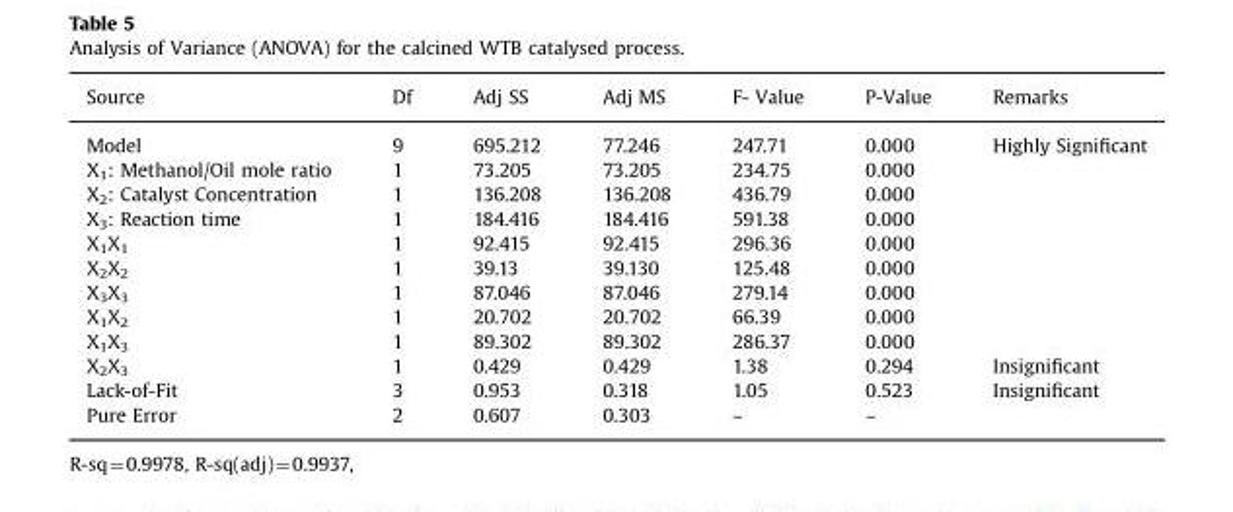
<table><thead><tr><td>Source</td><td>Df</td><td>Adj SS</td><td>Adj MS</td><td>F- Value</td><td>P-Value</td><td>Remarks</td></tr></thead><tbody><tr><td>Model</td><td>9</td><td>695.212</td><td>77.246</td><td>247.71</td><td>0.000</td><td rowspan="9">Highly Significant</td></tr><tr><td>X<sub>1</sub>: Methanol/Oil mole ratio</td><td>1</td><td>73.205</td><td>73.205</td><td>234.75</td><td>0.000</td></tr><tr><td>X<sub>2</sub>: Catalyst Concentration</td><td>1</td><td>136.208</td><td>136.208</td><td>436.79</td><td>0.000</td></tr><tr><td>X<sub>3</sub>: Reaction time</td><td>1</td><td>184.416</td><td>184.416</td><td>591.38</td><td>0.000</td></tr><tr><td>X<sub>1</sub>X<sub>1</sub></td><td>1</td><td>92.415</td><td>92.415</td><td>296.36</td><td>0.000</td></tr><tr><td>X<sub>2</sub>X<sub>2</sub></td><td>1</td><td>39.13</td><td>39.130</td><td>125.48</td><td>0.000</td></tr><tr><td>X<sub>3</sub>X<sub>3</sub></td><td>1</td><td>87.046</td><td>87.046</td><td>279.14</td><td>0.000</td></tr><tr><td>X<sub>1</sub>X<sub>2</sub></td><td>1</td><td>20.702</td><td>20.702</td><td>66.39</td><td>0.000</td></tr><tr><td>X<sub>1</sub>X<sub>3</sub></td><td>1</td><td>89.302</td><td>89.302</td><td>286.37</td><td>0.000</td></tr><tr><td>X<sub>2</sub>X<sub>3</sub></td><td>1</td><td>0.429</td><td>0.429</td><td>1.38</td><td>0.294</td><td>Insignificant</td></tr><tr><td>Lack-of-Fit</td><td>3</td><td>0.953</td><td>0.318</td><td>1.05</td><td>0.523</td><td>Insignificant</td></tr><tr><td>Pure Error</td><td>2</td><td>0.607</td><td>0.303</td><td>–</td><td>–</td><td></td></tr></tbody></table>